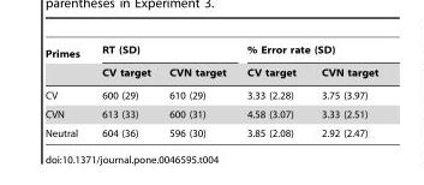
<table><thead><tr><td rowspan="2">Primes</td><td colspan="2">RT (SD)</td><td colspan="2">% Error rate (SD)</td></tr><tr><td>CV target</td><td>CVN target</td><td>CV target</td><td>CVN target</td></tr></thead><tbody><tr><td>CV</td><td>600 (29)</td><td>610 (29)</td><td>3.33 (2.28)</td><td>3.75 (3.97)</td></tr><tr><td>CVN</td><td>613 (33)</td><td>600 (31)</td><td>4.58 (3.07)</td><td>3.33 (2.51)</td></tr><tr><td>Neutral</td><td>604 (36)</td><td>596 (30)</td><td>3.85 (2.08)</td><td>2.92 (2.47)</td></tr></tbody></table>